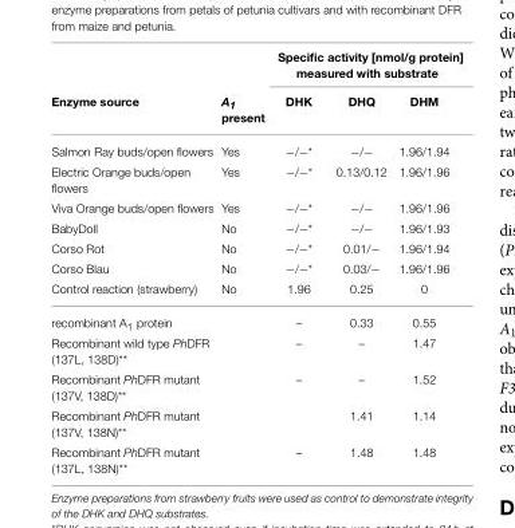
<table><thead><tr><td rowspan="2">Enzyme source</td><td rowspan="2">A<sub>1</sub> present</td><td colspan="3">Specific activity [nmol/g protein] measured with substrate</td></tr><tr><td>DHK</td><td>DHQ</td><td>DHM</td></tr></thead><tbody><tr><td>Salmon Ray buds/open flowers</td><td>Yes</td><td>−/−*</td><td>−/−</td><td>1.96/1.94</td></tr><tr><td>Electric Orange buds/open flowers</td><td>Yes</td><td>−/−*</td><td>0.13/0.12</td><td>1.96/1.96</td></tr><tr><td>Viva Orange buds/open flowers</td><td>Yes</td><td>−/−*</td><td>−/−</td><td>1.96/1.96</td></tr><tr><td>BabyDoll</td><td>No</td><td>−/−*</td><td>−/−</td><td>1.96/1.93</td></tr><tr><td>Corso Rot</td><td>No</td><td>−/−*</td><td>0.01/−</td><td>1.96/1.94</td></tr><tr><td>Corso Blau</td><td>No</td><td>−/−*</td><td>0.03/−</td><td>1.96/1.96</td></tr><tr><td>Control reaction (strawberry)</td><td>No</td><td>1.96</td><td>0.25</td><td>0</td></tr><tr><td>recombinant A<sub>1</sub> protein</td><td></td><td>–</td><td>0.33</td><td>0.55</td></tr><tr><td>Recombinant wild type PhDFR (137L, 138D)**</td><td></td><td>–</td><td>–</td><td>1.47</td></tr><tr><td>Recombinant PhDFR mutant (137V, 138D)**</td><td></td><td>–</td><td>–</td><td>1.52</td></tr><tr><td>Recombinant PhDFR mutant (137V, 138N)**</td><td></td><td></td><td>1.41</td><td>1.14</td></tr><tr><td>Recombinant PhDFR mutant (137L, 138N)**</td><td></td><td>–</td><td>1.48</td><td>1.48</td></tr></tbody></table>